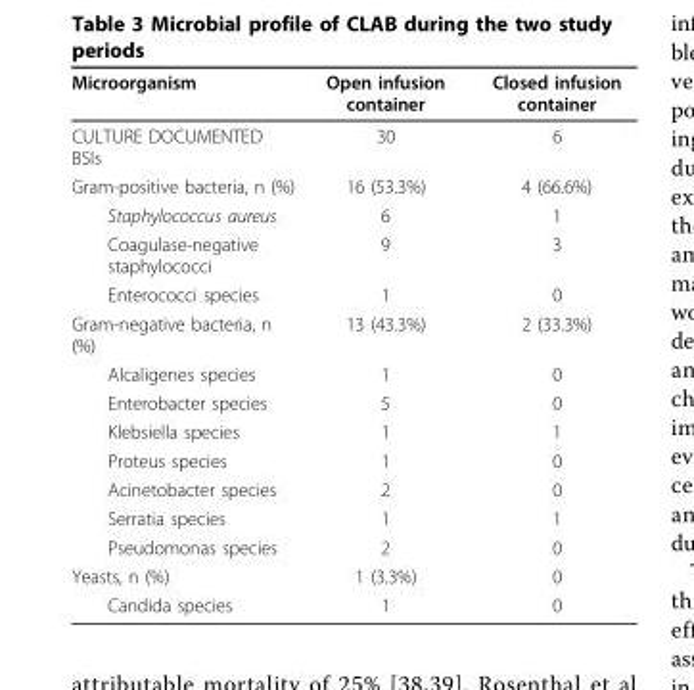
<table><thead><tr><td>Microorganism</td><td>Open infusion container</td><td>Closed infusion container</td></tr></thead><tbody><tr><td>CULTURE DOCUMENTED BSIs</td><td>30</td><td>6</td></tr><tr><td>Gram-positive bacteria, n (%)</td><td>16 (53.3%)</td><td>4 (66.6%)</td></tr><tr><td>Staphylococcus aureus</td><td>6</td><td>1</td></tr><tr><td>Coagulase-negative staphylococci</td><td>9</td><td>3</td></tr><tr><td>Enterococci species</td><td>1</td><td>0</td></tr><tr><td>Gram-negative bacteria, n (%)</td><td>13 (43.3%)</td><td>2 (33.3%)</td></tr><tr><td>Alcaligenes species</td><td>1</td><td>0</td></tr><tr><td>Enterobacter species</td><td>5</td><td>0</td></tr><tr><td>Klebsiella species</td><td>1</td><td>1</td></tr><tr><td>Proteus species</td><td>1</td><td>0</td></tr><tr><td>Acinetobacter species</td><td>2</td><td>0</td></tr><tr><td>Serratia species</td><td>1</td><td>1</td></tr><tr><td>Pseudomonas species</td><td>2</td><td>0</td></tr><tr><td>Yeasts, n (%)</td><td>1 (3.3%)</td><td>0</td></tr><tr><td>Candida species</td><td>1</td><td>0</td></tr></tbody></table>